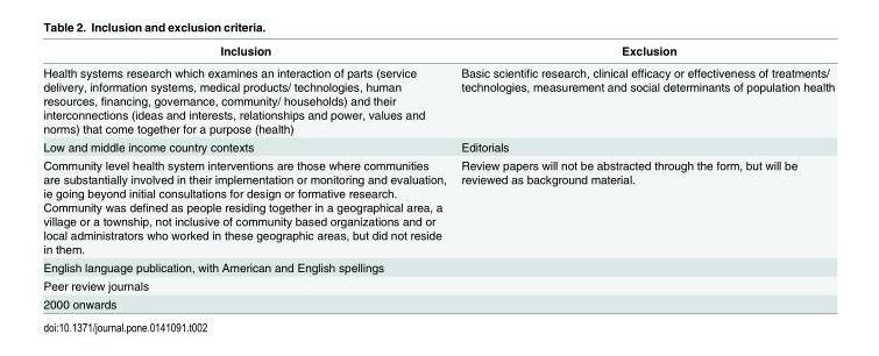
<table><thead><tr><td>Inclusion</td><td>Exclusion</td></tr></thead><tbody><tr><td>Health systems research which examines an interaction of parts (service delivery, information systems, medical products/ technologies, human resources, financing, governance, community/ households) and their interconnections (ideas and interests, relationships and power, values and norms) that come together for a purpose (health)</td><td>Basic scientific research, clinical efficacy or effectiveness of treatments/ technologies, measurement and social determinants of population health</td></tr><tr><td>Low and middle income country contexts</td><td>Editorials</td></tr><tr><td>Community level health system interventions are those where communities are substantially involved in their implementation or monitoring and evaluation, ie going beyond initial consultations for design or formative research. Community was defined as people residing together in a geographical area, a village or a township, not inclusive of community based organizations and or local administrators who worked in these geographic areas, but did not reside in them.</td><td>Review papers will not be abstracted through the form, but will be reviewed as background material.</td></tr><tr><td colspan="2">English language publication, with American and English spellings</td></tr><tr><td colspan="2">Peer review journals</td></tr><tr><td>2000 onwards</td><td></td></tr></tbody></table>